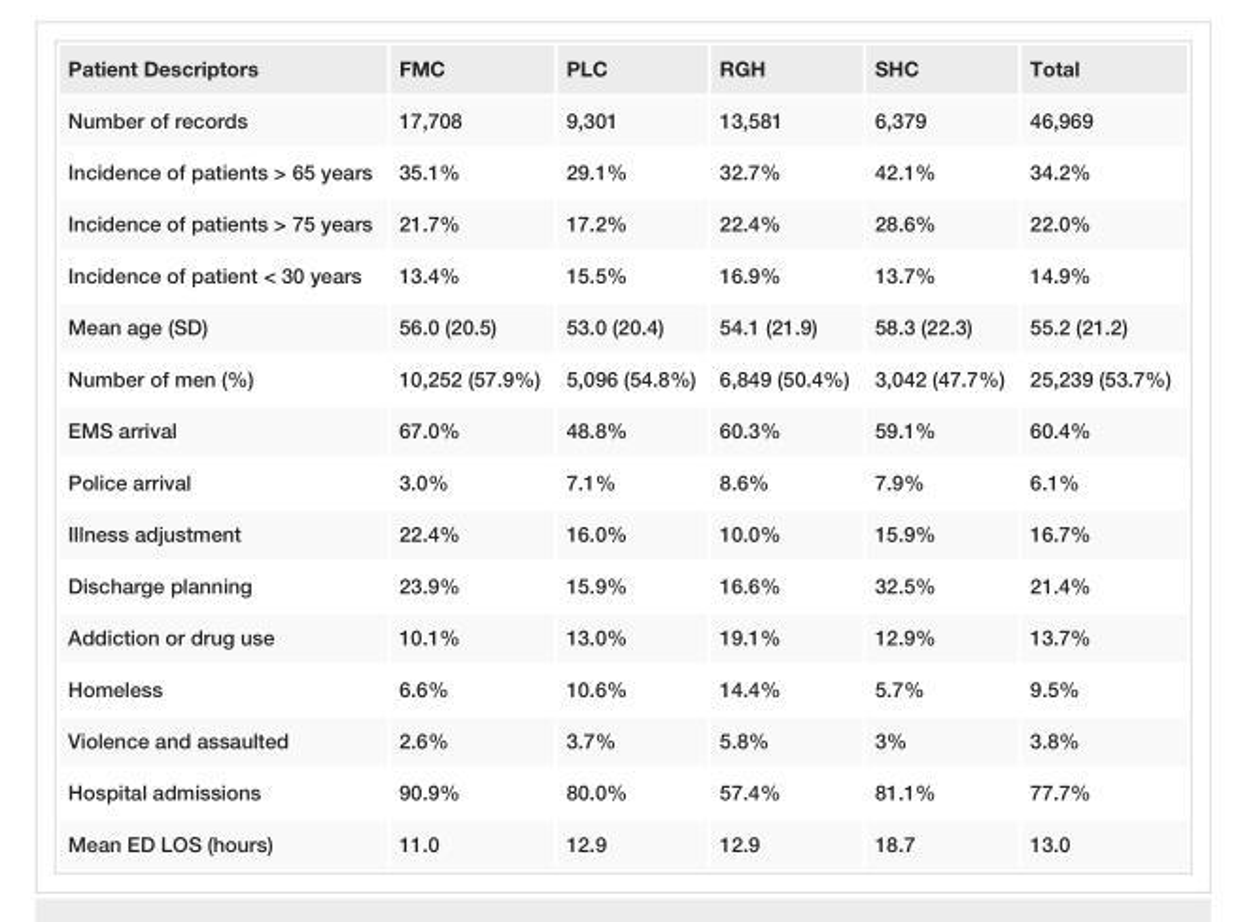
<table><tbody><tr><td>Patient Descriptors</td><td>FMC</td><td>PLC</td><td>RGH</td><td>SHC</td><td>Total</td></tr><tr><td>Number of records</td><td>17,708</td><td>9,301</td><td>13,581</td><td>6,379</td><td>46,969</td></tr><tr><td>Incidence of patients &gt; 65 years</td><td>35.1%</td><td>29.1%</td><td>32.7%</td><td>42.1%</td><td>34.2%</td></tr><tr><td>Incidence of patients &gt; 75 years</td><td>21.7%</td><td>17.2%</td><td>22.4%</td><td>28.6%</td><td>22.0%</td></tr><tr><td>Incidence of patient &lt; 30 years</td><td>13.4%</td><td>15.5%</td><td>16.9%</td><td>13.7%</td><td>14.9%</td></tr><tr><td>Mean age (SD)</td><td>56.0 (20.5)</td><td>53.0 (20.4)</td><td>54.1 (21.9)</td><td>58.3 (22.3)</td><td>55.2 (21.2)</td></tr><tr><td>Number of men (%)</td><td>10,252 (57.9%)</td><td>5,096 (54.8%)</td><td>6,849 (50.4%)</td><td>3,042 (47.7%)</td><td>25,239 (53.7%)</td></tr><tr><td>EMS arrival</td><td>67.0%</td><td>48.8%</td><td>60.3%</td><td>59.1%</td><td>60.4%</td></tr><tr><td>Police arrival</td><td>3.0%</td><td>7.1%</td><td>8.6%</td><td>7.9%</td><td>6.1%</td></tr><tr><td>Illness adjustment</td><td>22.4%</td><td>16.0%</td><td>10.0%</td><td>15.9%</td><td>16.7%</td></tr><tr><td>Discharge planning</td><td>23.9%</td><td>15.9%</td><td>16.6%</td><td>32.5%</td><td>21.4%</td></tr><tr><td>Addiction or drug use</td><td>10.1%</td><td>13.0%</td><td>19.1%</td><td>12.9%</td><td>13.7%</td></tr><tr><td>Homeless</td><td>6.6%</td><td>10.6%</td><td>14.4%</td><td>5.7%</td><td>9.5%</td></tr><tr><td>Violence and assaulted</td><td>2.6%</td><td>3.7%</td><td>5.8%</td><td>3%</td><td>3.8%</td></tr><tr><td>Hospital admissions</td><td>90.9%</td><td>80.0%</td><td>57.4%</td><td>81.1%</td><td>77.7%</td></tr><tr><td>Mean ED LOS (hours)</td><td>11.0</td><td>12.9</td><td>12.9</td><td>18.7</td><td>13.0</td></tr></tbody></table>